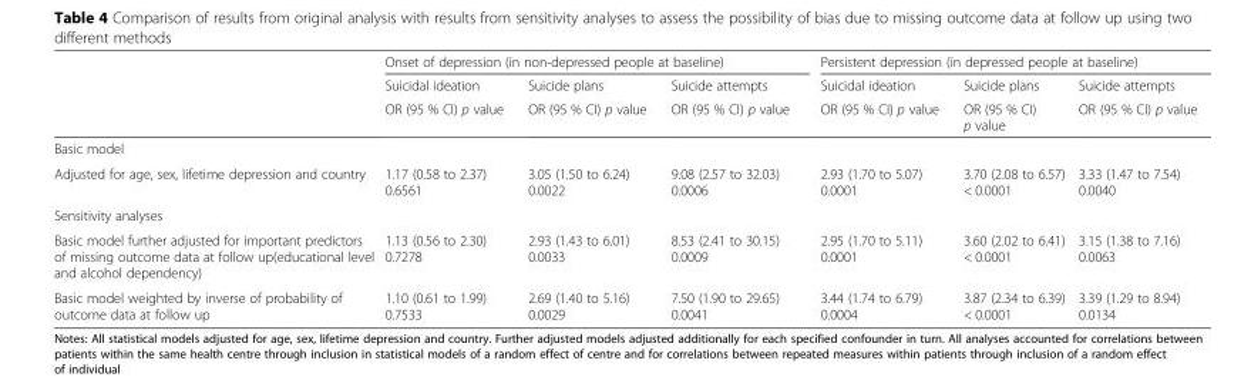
<table><thead><tr><td rowspan="3"></td><td colspan="3">Onset of depression (in non-depressed people at baseline)</td><td colspan="3">Persistent depression (in depressed people at baseline)</td></tr><tr><td rowspan="2">Suicidal ideation OR (95 % CI) p value</td><td rowspan="2">Suicide plans OR (95 % CI) p value</td><td rowspan="2">Suicide attempts OR (95 % CI) p value</td><td rowspan="2">Suicidal ideation OR (95 % CI) p value</td><td rowspan="2">Suicide plans OR (95 % CI) p value</td><td rowspan="2">Suicide attempts OR (95 % CI) p value</td></tr><tr></tr></thead><tbody><tr><td colspan="7">Basic model</td></tr><tr><td>Adjusted for age, sex, lifetime depression and country</td><td>1.17 (0.58 to 2.37) 0.6561</td><td>3.05 (1.50 to 6.24) 0.0022</td><td>9.08 (2.57 to 32.03) 0.0006</td><td>2.93 (1.70 to 5.07) 0.0001</td><td>3.70 (2.08 to 6.57) &lt; 0.0001</td><td>3.33 (1.47 to 7.54) 0.0040</td></tr><tr><td colspan="7">Sensitivity analyses</td></tr><tr><td>Basic model further adjusted for important predictors of missing outcome data at follow up(educational level and alcohol dependency)</td><td>1.13 (0.56 to 2.30) 0.7278</td><td>2.93 (1.43 to 6.01) 0.0033</td><td>8.53 (2.41 to 30.15) 0.0009</td><td>2.95 (1.70 to 5.11) 0.0001</td><td>3.60 (2.02 to 6.41) &lt; 0.0001</td><td>3.15 (1.38 to 7.16) 0.0063</td></tr><tr><td>Basic model weighted by inverse of probability of outcome data at follow up</td><td>1.10 (0.61 to 1.99) 0.7533</td><td>2.69 (1.40 to 5.16) 0.0029</td><td>7.50 (1.90 to 29.65) 0.0041</td><td>3.44 (1.74 to 6.79) 0.0004</td><td>3.87 (2.34 to 6.39) &lt; 0.0001</td><td>3.39 (1.29 to 8.94) 0.0134</td></tr></tbody></table>